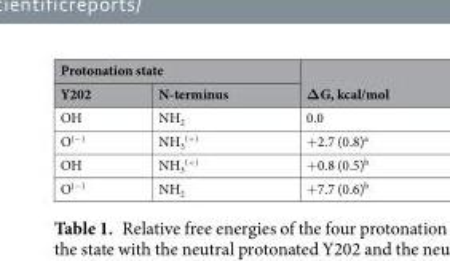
<table><thead><tr><td colspan="2">Protonation state</td><td rowspan="2">ΔG, kcal/mol</td></tr><tr><td>Y202</td><td>N-terminus</td></tr></thead><tbody><tr><td>OH</td><td>NH<sub>2</sub></td><td>0.0</td></tr><tr><td>O<sup>(−)</sup></td><td>NH<sub>3</sub> <sup>(+)</sup></td><td>+2.7 (0.8)<sup>a</sup></td></tr><tr><td>OH</td><td>NH<sub>3</sub> <sup>(+)</sup></td><td>+0.8 (0.5)<sup>b</sup></td></tr><tr><td>O<sup>(−)</sup></td><td>NH<sub>2</sub></td><td>+7.7 (0.6)<sup>b</sup></td></tr></tbody></table>